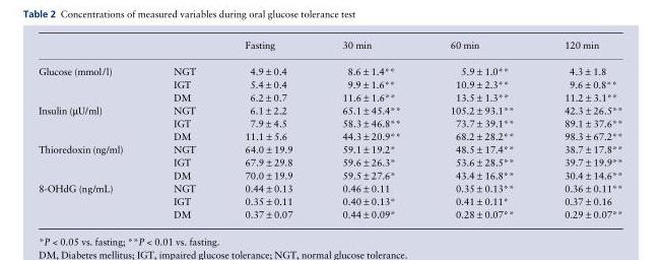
<table><thead><tr><td></td><td></td><td>Fasting</td><td>30 min</td><td>60 min</td><td>120 min</td></tr></thead><tbody><tr><td rowspan="3">Glucose (mmol/l)</td><td>NGT</td><td>4.9 ± 0.4</td><td>8.6 ± 1.4**</td><td>5.9 ± 1.0**</td><td>4.3 ± 1.8</td></tr><tr><td>IGT</td><td>5.4 ± 0.4</td><td>9.9 ± 1.6**</td><td>10.9 ± 2.3**</td><td>9.6 ± 0.8**</td></tr><tr><td>DM</td><td>6.2 ± 0.7</td><td>11.6 ± 1.6**</td><td>13.5 ± 1.3**</td><td>11.2 ± 3.1**</td></tr><tr><td rowspan="3">Insulin (µU/ml)</td><td>NGT</td><td>6.1 ± 2.2</td><td>65.1 ± 45.4**</td><td>105.2 ± 93.1**</td><td>42.3 ± 26.5**</td></tr><tr><td>IGT</td><td>7.9 ± 4.5</td><td>58.3 ± 46.8**</td><td>73.7 ± 39.1**</td><td>89.1 ± 37.6**</td></tr><tr><td>DM</td><td>11.1 ± 5.6</td><td>44.3 ± 20.9**</td><td>68.2 ± 28.2**</td><td>98.3 ± 67.2**</td></tr><tr><td rowspan="3">Thioredoxin (ng/ml)</td><td>NGT</td><td>64.0 ± 19.9</td><td>59.1 ± 19.2*</td><td>48.5 ± 17.4**</td><td>38.7 ± 17.8**</td></tr><tr><td>IGT</td><td>67.9 ± 29.8</td><td>59.6 ± 26.3*</td><td>53.6 ± 28.5**</td><td>39.7 ± 19.9**</td></tr><tr><td>DM</td><td>70.0 ± 19.9</td><td>59.5 ± 27.6*</td><td>43.4 ± 16.8**</td><td>30.4 ± 14.6**</td></tr><tr><td rowspan="3">8-OHdG (ng/mL)</td><td>NGT</td><td>0.44 ± 0.13</td><td>0.46 ± 0.11</td><td>0.35 ± 0.13**</td><td>0.36 ± 0.11**</td></tr><tr><td>IGT</td><td>0.35 ± 0.11</td><td>0.40 ± 0.13*</td><td>0.41 ± 0.11*</td><td>0.37 ± 0.16</td></tr><tr><td>DM</td><td>0.37 ± 0.07</td><td>0.44 ± 0.09*</td><td>0.28 ± 0.07**</td><td>0.29 ± 0.07**</td></tr></tbody></table>